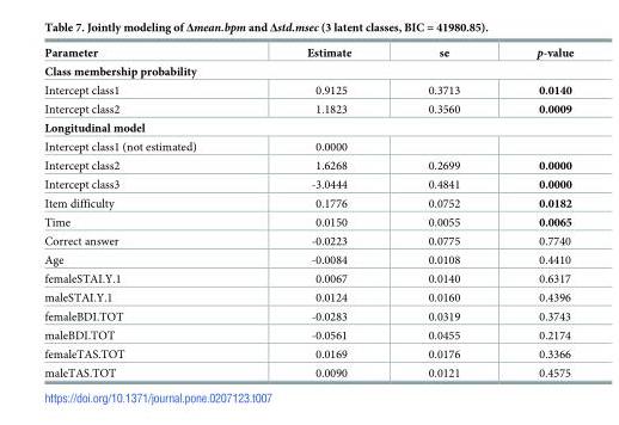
<table><thead><tr><td>Parameter</td><td>Estimate</td><td>se</td><td>p-value</td></tr></thead><tbody><tr><td colspan="4">Class membership probability</td></tr><tr><td>Intercept class1</td><td>0.9125</td><td>0.3713</td><td>0.0140</td></tr><tr><td>Intercept class2</td><td>1.1823</td><td>0.3560</td><td>0.0009</td></tr><tr><td colspan="4">Longitudinal model</td></tr><tr><td>Intercept class1 (not estimated)</td><td>0.0000</td><td></td><td></td></tr><tr><td>Intercept class2</td><td>1.6268</td><td>0.2699</td><td>0.0000</td></tr><tr><td>Intercept class3</td><td>-3.0444</td><td>0.4841</td><td>0.0000</td></tr><tr><td>Item difficulty</td><td>0.1776</td><td>0.0752</td><td>0.0182</td></tr><tr><td>Time</td><td>0.0150</td><td>0.0055</td><td>0.0065</td></tr><tr><td>Correct answer</td><td>-0.0223</td><td>0.0775</td><td>0.7740</td></tr><tr><td>Age</td><td>-0.0084</td><td>0.0108</td><td>0.4410</td></tr><tr><td>femaleSTAI.Y.1</td><td>0.0067</td><td>0.0140</td><td>0.6317</td></tr><tr><td>maleSTAI.Y.1</td><td>0.0124</td><td>0.0160</td><td>0.4396</td></tr><tr><td>femaleBDI.TOT</td><td>-0.0283</td><td>0.0319</td><td>0.3743</td></tr><tr><td>maleBDI.TOT</td><td>-0.0561</td><td>0.0455</td><td>0.2174</td></tr><tr><td>femaleTAS.TOT</td><td>0.0169</td><td>0.0176</td><td>0.3366</td></tr><tr><td>maleTAS.TOT</td><td>0.0090</td><td>0.0121</td><td>0.4575</td></tr></tbody></table>